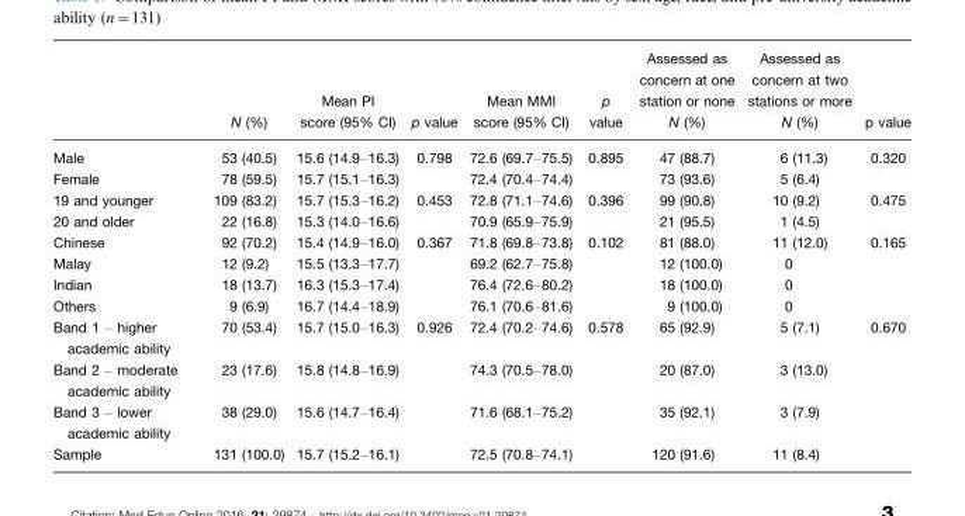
<table><thead><tr><td></td><td>N (%)</td><td>Mean PI score (95% CI)</td><td>p value</td><td>Mean MMI score (95% CI)</td><td>p value</td><td>Assessed as concern at one station or none N (%)</td><td>Assessed as concern at two stations or more N (%)</td><td>p value</td></tr></thead><tbody><tr><td>Male</td><td>53 (40.5)</td><td>15.6 (14.9–16.3)</td><td>0.798</td><td>72.6 (69.7–75.5)</td><td>0.895</td><td>47 (88.7)</td><td>6 (11.3)</td><td>0.320</td></tr><tr><td>Female</td><td>78 (59.5)</td><td>15.7 (15.1–16.3)</td><td></td><td>72.4 (70.4–74.4)</td><td></td><td>73 (93.6)</td><td>5 (6.4)</td><td></td></tr><tr><td>19 and younger</td><td>109 (83.2)</td><td>15.7 (15.3–16.2)</td><td>0.453</td><td>72.8 (71.1–74.6)</td><td>0.396</td><td>99 (90.8)</td><td>10 (9.2)</td><td>0.475</td></tr><tr><td>20 and older</td><td>22 (16.8)</td><td>15.3 (14.0–16.6)</td><td></td><td>70.9 (65.9–75.9)</td><td></td><td>21 (95.5)</td><td>1 (4.5)</td><td></td></tr><tr><td>Chinese</td><td>92 (70.2)</td><td>15.4 (14.9–16.0)</td><td>0.367</td><td>71.8 (69.8–73.8)</td><td>0.102</td><td>81 (88.0)</td><td>11 (12.0)</td><td>0.165</td></tr><tr><td>Malay</td><td>12 (9.2)</td><td>15.5 (13.3–17.7)</td><td></td><td>69.2 (62.7–75.8)</td><td></td><td>12 (100.0)</td><td>0</td><td></td></tr><tr><td>Indian</td><td>18 (13.7)</td><td>16.3 (15.3–17.4)</td><td></td><td>76.4 (72.6–80.2)</td><td></td><td>18 (100.0)</td><td>0</td><td></td></tr><tr><td>Others</td><td>9 (6.9)</td><td>16.7 (14.4–18.9)</td><td></td><td>76.1 (70.6–81.6)</td><td></td><td>9 (100.0)</td><td>0</td><td></td></tr><tr><td>Band 1 – higher academic ability</td><td>70 (53.4)</td><td>15.7 (15.0–16.3)</td><td>0.926</td><td>72.4 (70.2–74.6)</td><td>0.578</td><td>65 (92.9)</td><td>5 (7.1)</td><td>0.670</td></tr><tr><td>Band 2 – moderate academic ability</td><td>23 (17.6)</td><td>15.8 (14.8–16.9)</td><td></td><td>74.3 (70.5–78.0)</td><td></td><td>20 (87.0)</td><td>3 (13.0)</td><td></td></tr><tr><td>Band 3 – lower academic ability</td><td>38 (29.0)</td><td>15.6 (14.7–16.4)</td><td></td><td>71.6 (68.1–75.2)</td><td></td><td>35 (92.1)</td><td>3 (7.9)</td><td></td></tr><tr><td>Sample</td><td>131 (100.0)</td><td>15.7 (15.2–16.1)</td><td></td><td>72.5 (70.8–74.1)</td><td></td><td>120 (91.6)</td><td>11 (8.4)</td><td></td></tr></tbody></table>